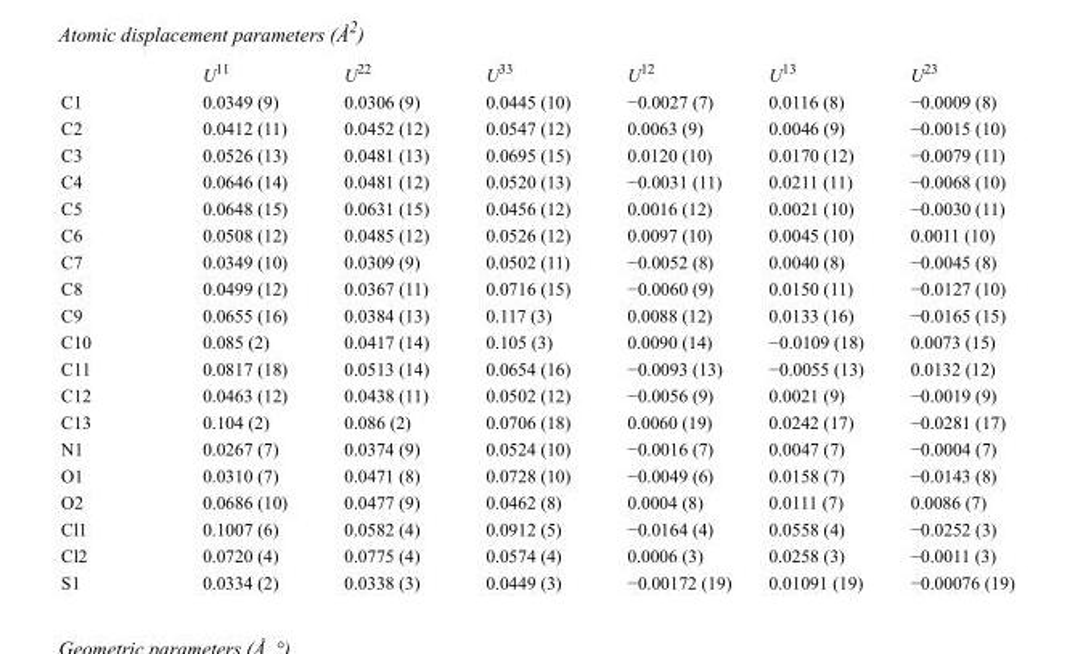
<table><thead><tr><td></td><td>U<sup>11</sup></td><td>U<sup>22</sup></td><td>U<sup>33</sup></td><td>U<sup>12</sup></td><td>U<sup>13</sup></td><td>U<sup>23</sup></td></tr></thead><tbody><tr><td>C1</td><td>0.0349 (9)</td><td>0.0306 (9)</td><td>0.0445 (10)</td><td>−0.0027 (7)</td><td>0.0116 (8)</td><td>−0.0009 (8)</td></tr><tr><td>C2</td><td>0.0412 (11)</td><td>0.0452 (12)</td><td>0.0547 (12)</td><td>0.0063 (9)</td><td>0.0046 (9)</td><td>−0.0015 (10)</td></tr><tr><td>C3</td><td>0.0526 (13)</td><td>0.0481 (13)</td><td>0.0695 (15)</td><td>0.0120 (10)</td><td>0.0170 (12)</td><td>−0.0079 (11)</td></tr><tr><td>C4</td><td>0.0646 (14)</td><td>0.0481 (12)</td><td>0.0520 (13)</td><td>−0.0031 (11)</td><td>0.0211 (11)</td><td>−0.0068 (10)</td></tr><tr><td>C5</td><td>0.0648 (15)</td><td>0.0631 (15)</td><td>0.0456 (12)</td><td>0.0016 (12)</td><td>0.0021 (10)</td><td>−0.0030 (11)</td></tr><tr><td>C6</td><td>0.0508 (12)</td><td>0.0485 (12)</td><td>0.0526 (12)</td><td>0.0097 (10)</td><td>0.0045 (10)</td><td>0.0011 (10)</td></tr><tr><td>C7</td><td>0.0349 (10)</td><td>0.0309 (9)</td><td>0.0502 (11)</td><td>−0.0052 (8)</td><td>0.0040 (8)</td><td>−0.0045 (8)</td></tr><tr><td>C8</td><td>0.0499 (12)</td><td>0.0367 (11)</td><td>0.0716 (15)</td><td>−0.0060 (9)</td><td>0.0150 (11)</td><td>−0.0127 (10)</td></tr><tr><td>C9</td><td>0.0655 (16)</td><td>0.0384 (13)</td><td>0.117 (3)</td><td>0.0088 (12)</td><td>0.0133 (16)</td><td>−0.0165 (15)</td></tr><tr><td>C10</td><td>0.085 (2)</td><td>0.0417 (14)</td><td>0.105 (3)</td><td>0.0090 (14)</td><td>−0.0109 (18)</td><td>0.0073 (15)</td></tr><tr><td>C11</td><td>0.0817 (18)</td><td>0.0513 (14)</td><td>0.0654 (16)</td><td>−0.0093 (13)</td><td>−0.0055 (13)</td><td>0.0132 (12)</td></tr><tr><td>C12</td><td>0.0463 (12)</td><td>0.0438 (11)</td><td>0.0502 (12)</td><td>−0.0056 (9)</td><td>0.0021 (9)</td><td>−0.0019 (9)</td></tr><tr><td>C13</td><td>0.104 (2)</td><td>0.086 (2)</td><td>0.0706 (18)</td><td>0.0060 (19)</td><td>0.0242 (17)</td><td>−0.0281 (17)</td></tr><tr><td>N1</td><td>0.0267 (7)</td><td>0.0374 (9)</td><td>0.0524 (10)</td><td>−0.0016 (7)</td><td>0.0047 (7)</td><td>−0.0004 (7)</td></tr><tr><td>O1</td><td>0.0310 (7)</td><td>0.0471 (8)</td><td>0.0728 (10)</td><td>−0.0049 (6)</td><td>0.0158 (7)</td><td>−0.0143 (8)</td></tr><tr><td>O2</td><td>0.0686 (10)</td><td>0.0477 (9)</td><td>0.0462 (8)</td><td>0.0004 (8)</td><td>0.0111 (7)</td><td>0.0086 (7)</td></tr><tr><td>Cl1</td><td>0.1007 (6)</td><td>0.0582 (4)</td><td>0.0912 (5)</td><td>−0.0164 (4)</td><td>0.0558 (4)</td><td>−0.0252 (3)</td></tr><tr><td>Cl2</td><td>0.0720 (4)</td><td>0.0775 (4)</td><td>0.0574 (4)</td><td>0.0006 (3)</td><td>0.0258 (3)</td><td>−0.0011 (3)</td></tr><tr><td>S1</td><td>0.0334 (2)</td><td>0.0338 (3)</td><td>0.0449 (3)</td><td>−0.00172 (19)</td><td>0.01091 (19)</td><td>−0.00076 (19)</td></tr></tbody></table>